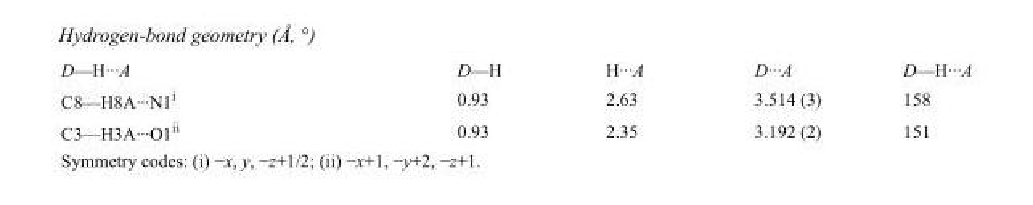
<table><tbody><tr><td>D—H···A</td><td>D—H</td><td>H···A</td><td>D···A</td><td>D—H···A</td></tr><tr><td>C8—H8A···N1<sup>i</sup></td><td>0.93</td><td>2.63</td><td>3.514 (3)</td><td>158</td></tr><tr><td>C3—H3A···O1<sup>ii</sup></td><td>0.93</td><td>2.35</td><td>3.192 (2)</td><td>151</td></tr></tbody></table>